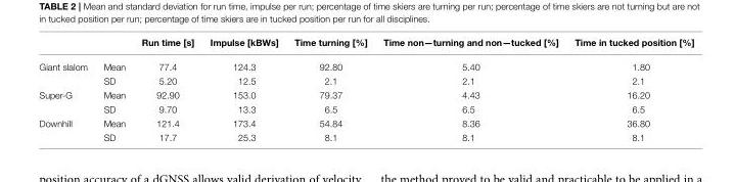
<table><thead><tr><td></td><td></td><td>Run time [s]</td><td>Impulse [kBWs]</td><td>Time turning [%]</td><td>Time non—turning and non—tucked [%]</td><td>Time in tucked position [%]</td></tr></thead><tbody><tr><td rowspan="2">Giant slalom</td><td>Mean</td><td>77.4</td><td>124.3</td><td>92.80</td><td>5.40</td><td>1.80</td></tr><tr><td>SD</td><td>5.20</td><td>12.5</td><td>2.1</td><td>2.1</td><td>2.1</td></tr><tr><td rowspan="2">Super-G</td><td>Mean</td><td>92.90</td><td>153.0</td><td>79.37</td><td>4.43</td><td>16.20</td></tr><tr><td>SD</td><td>9.70</td><td>13.3</td><td>6.5</td><td>6.5</td><td>6.5</td></tr><tr><td rowspan="2">Downhill</td><td>Mean</td><td>121.4</td><td>173.4</td><td>54.84</td><td>8.36</td><td>36.80</td></tr><tr><td>SD</td><td>17.7</td><td>25.3</td><td>8.1</td><td>8.1</td><td>8.1</td></tr></tbody></table>